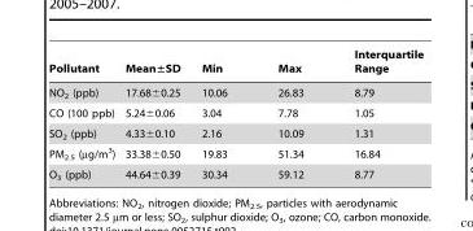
<table><thead><tr><td>Pollutant</td><td>Mean±SD</td><td>Min</td><td>Max</td><td>Interquartile Range</td></tr></thead><tbody><tr><td>NO<sub>2</sub> (ppb)</td><td>17.68±0.25</td><td>10.06</td><td>26.83</td><td>8.79</td></tr><tr><td>CO (100 ppb)</td><td>5.24±0.06</td><td>3.04</td><td>7.78</td><td>1.05</td></tr><tr><td>SO<sub>2</sub> (ppb)</td><td>4.33±0.10</td><td>2.16</td><td>10.09</td><td>1.31</td></tr><tr><td>PM<sub>2.5</sub> (µg/m<sup>3</sup>)</td><td>33.38±0.50</td><td>19.83</td><td>51.34</td><td>16.84</td></tr><tr><td>O<sub>3</sub> (ppb)</td><td>44.64±0.39</td><td>30.34</td><td>59.12</td><td>8.77</td></tr></tbody></table>